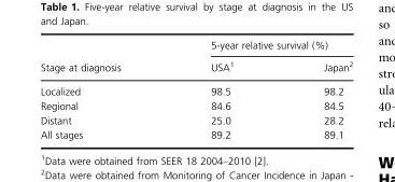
<table><thead><tr><td rowspan="2">Stage at diagnosis</td><td colspan="2">5-year relative survival (%)</td></tr><tr><td>USA<sup>1</sup></td><td>Japan<sup>2</sup></td></tr></thead><tbody><tr><td>Localized</td><td>98.5</td><td>98.2</td></tr><tr><td>Regional</td><td>84.6</td><td>84.5</td></tr><tr><td>Distant</td><td>25.0</td><td>28.2</td></tr><tr><td>All stages</td><td>89.2</td><td>89.1</td></tr></tbody></table>